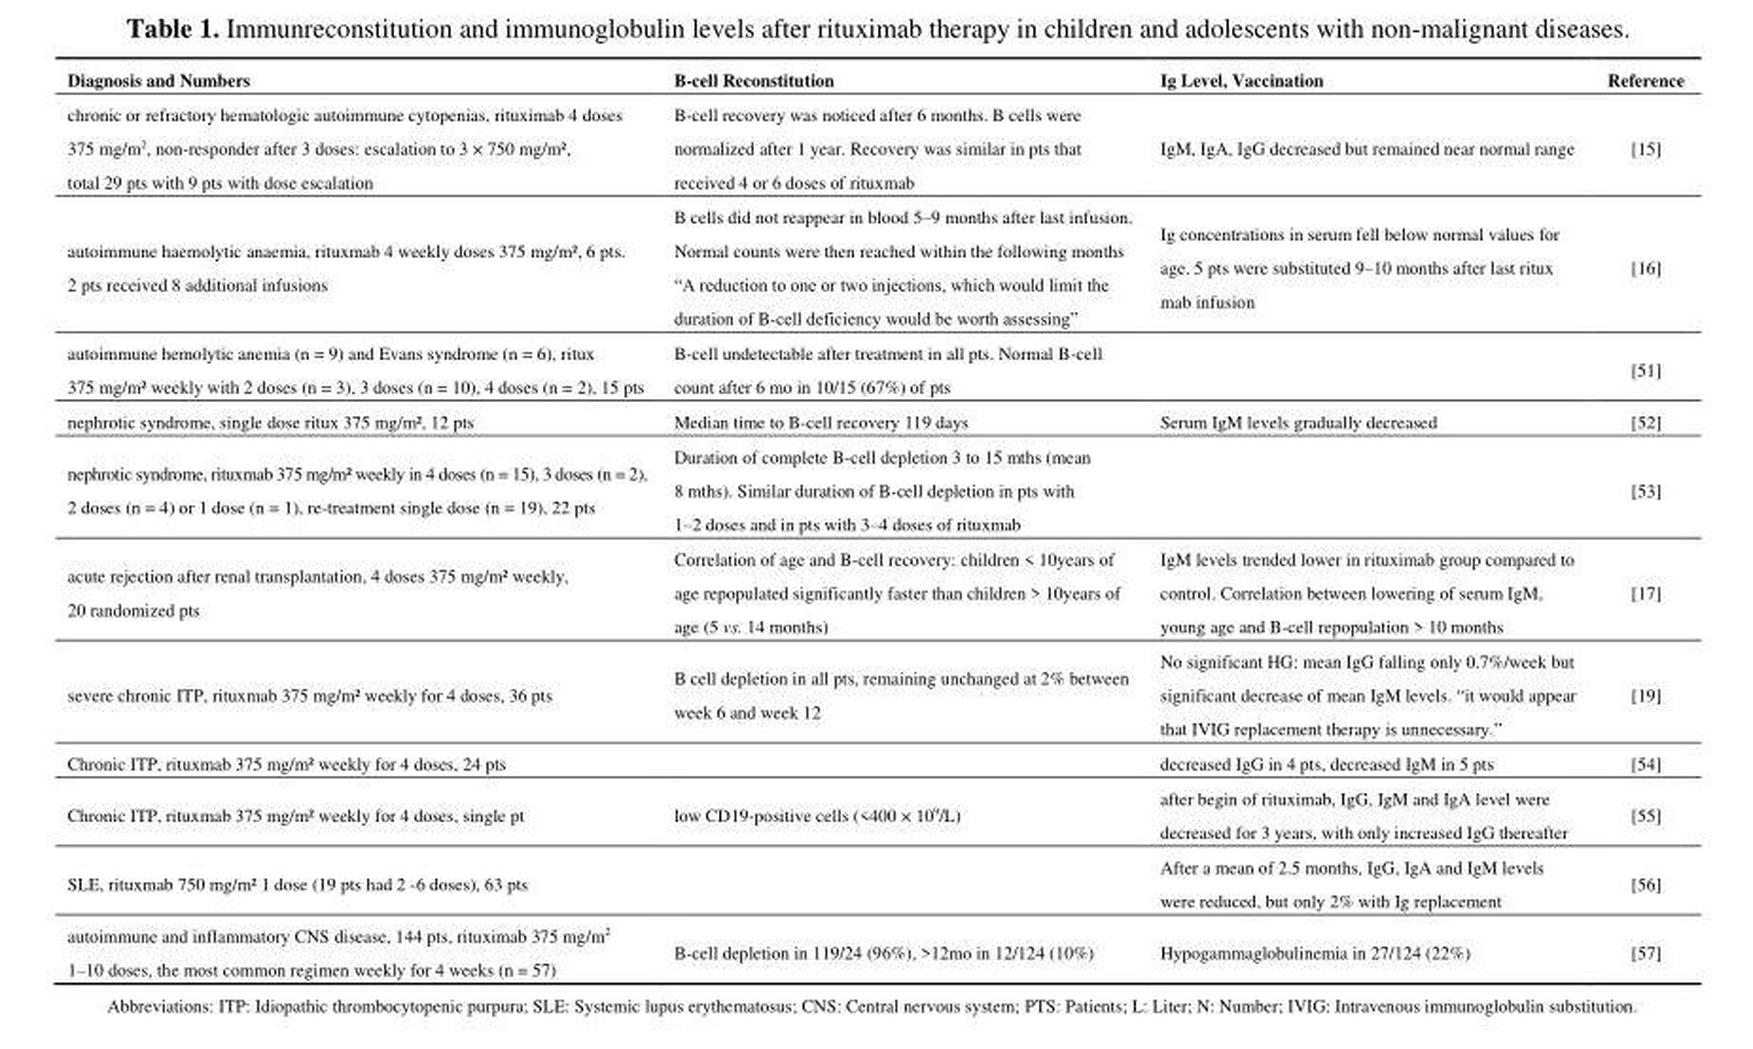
<table><thead><tr><td>Diagnosis and Numbers</td><td>B-cell Reconstitution</td><td>Ig Level, Vaccination</td><td>Reference</td></tr></thead><tbody><tr><td>chronic or refractory hematologic autoimmune cytopenias, rituximab 4 doses 375 mg/m<sup>2</sup>, non-responder after 3 doses: escalation to 3 × 750 mg/m², total 29 pts with 9 pts with dose escalation</td><td>B-cell recovery was noticed after 6 months. B cells were normalized after 1 year. Recovery was similar in pts that received 4 or 6 doses of rituxmab</td><td>IgM, IgA, IgG decreased but remained near normal range</td><td>[15]</td></tr><tr><td>autoimmune haemolytic anaemia, rituxmab 4 weekly doses 375 mg/m², 6 pts. 2 pts received 8 additional infusions</td><td>B cells did not reappear in blood 5–9 months after last infusion. Normal counts were then reached within the following months “A reduction to one or two injections, which would limit the duration of B-cell deficiency would be worth assessing”</td><td>Ig concentrations in serum fell below normal values for age. 5 pts were substituted 9–10 months after last ritux mab infusion</td><td>[16]</td></tr><tr><td>autoimmune hemolytic anemia (n = 9) and Evans syndrome (n = 6), ritux 375 mg/m² weekly with 2 doses (n = 3), 3 doses (n = 10), 4 doses (n = 2), 15 pts</td><td>B-cell undetectable after treatment in all pts. Normal B-cell count after 6 mo in 10/15 (67%) of pts</td><td></td><td>[51]</td></tr><tr><td>nephrotic syndrome, single dose ritux 375 mg/m², 12 pts</td><td>Median time to B-cell recovery 119 days</td><td>Serum IgM levels gradually decreased</td><td>[52]</td></tr><tr><td>nephrotic syndrome, rituxmab 375 mg/m² weekly in 4 doses (n = 15), 3 doses (n = 2), 2 doses (n = 4) or 1 dose (n = 1), re-treatment single dose (n = 19), 22 pts</td><td>Duration of complete B-cell depletion 3 to 15 mths (mean 8 mths). Similar duration of B-cell depletion in pts with 1–2 doses and in pts with 3–4 doses of rituxmab</td><td></td><td>[53]</td></tr><tr><td>acute rejection after renal transplantation, 4 doses 375 mg/m² weekly, 20 randomized pts</td><td>Correlation of age and B-cell recovery: children &lt; 10years of age repopulated significantly faster than children &gt; 10years of age (5 vs. 14 months)</td><td>IgM levels trended lower in rituximab group compared to control. Correlation between lowering of serum IgM, young age and B-cell repopulation &gt; 10 months</td><td>[17]</td></tr><tr><td>severe chronic ITP, rituxmab 375 mg/m² weekly for 4 doses, 36 pts</td><td>B cell depletion in all pts, remaining unchanged at 2% between week 6 and week 12</td><td>No significant HG: mean IgG falling only 0.7%/week but significant decrease of mean IgM levels. “it would appear that IVIG replacement therapy is unnecessary.”</td><td>[19]</td></tr><tr><td>Chronic ITP, rituxmab 375 mg/m² weekly for 4 doses, 24 pts</td><td></td><td>decreased IgG in 4 pts, decreased IgM in 5 pts</td><td>[54]</td></tr><tr><td>Chronic ITP, rituxmab 375 mg/m² weekly for 4 doses, single pt</td><td>low CD19-positive cells (&lt;400 × 10<sup>9</sup>/L)</td><td>after begin of rituximab, IgG, IgM and IgA level were decreased for 3 years, with only increased IgG thereafter</td><td>[55]</td></tr><tr><td>SLE, rituxmab 750 mg/m² 1 dose (19 pts had 2 -6 doses), 63 pts</td><td></td><td>After a mean of 2.5 months, IgG, IgA and IgM levels were reduced, but only 2% with Ig replacement</td><td>[56]</td></tr><tr><td>autoimmune and inflammatory CNS disease, 144 pts, rituximab 375 mg/m<sup>2</sup> 1–10 doses, the most common regimen weekly for 4 weeks (n = 57)</td><td>B-cell depletion in 119/24 (96%), &gt;12mo in 12/124 (10%)</td><td>Hypogammaglobulinemia in 27/124 (22%)</td><td>[57]</td></tr></tbody></table>